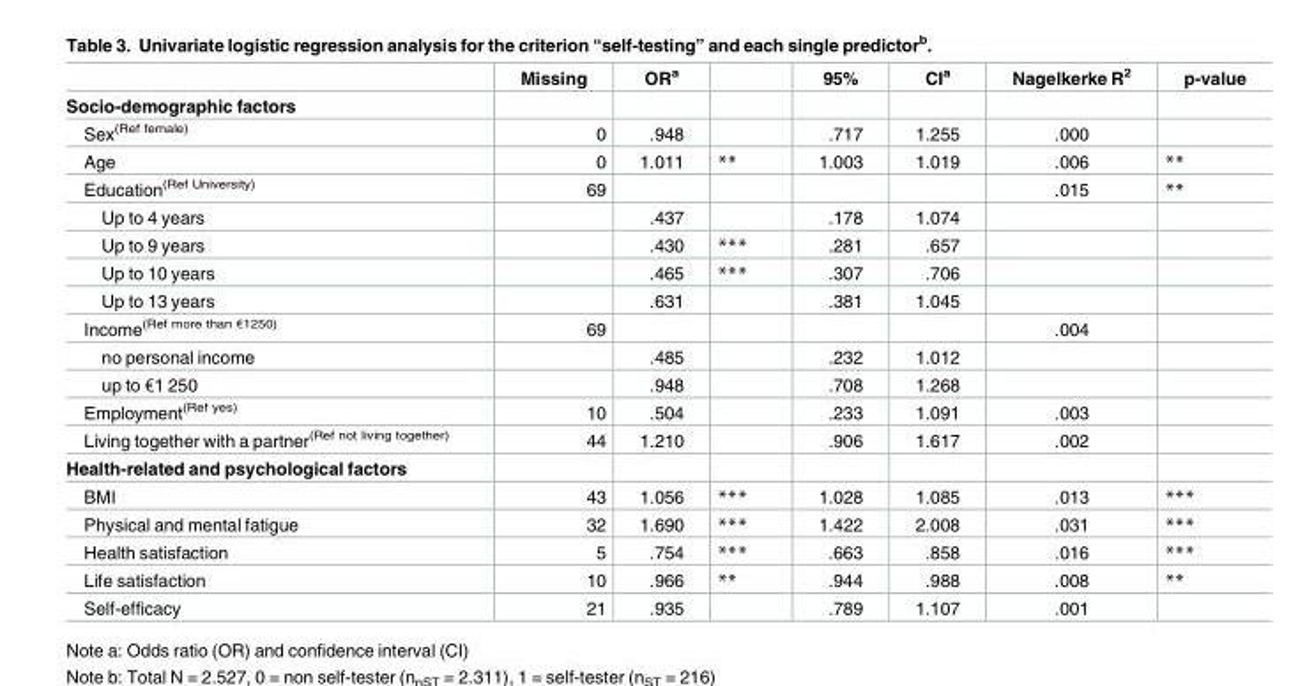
<table><thead><tr><td></td><td>Missing</td><td>OR<sup>a</sup></td><td></td><td>95%</td><td>CI<sup>a</sup></td><td>Nagelkerke R<sup>2</sup></td><td>p-value</td></tr></thead><tbody><tr><td colspan="8">Socio-demographic factors</td></tr><tr><td>Sex<sup>(Ref female)</sup></td><td>0</td><td>.948</td><td></td><td>.717</td><td>1.255</td><td>.000</td><td></td></tr><tr><td>Age</td><td>0</td><td>1.011</td><td>**</td><td>1.003</td><td>1.019</td><td>.006</td><td>**</td></tr><tr><td>Education<sup>(Ref University)</sup></td><td>69</td><td></td><td></td><td></td><td></td><td>.015</td><td>**</td></tr><tr><td>Up to 4 years</td><td></td><td>.437</td><td></td><td>.178</td><td>1.074</td><td></td><td></td></tr><tr><td>Up to 9 years</td><td></td><td>.430</td><td>***</td><td>.281</td><td>.657</td><td></td><td></td></tr><tr><td>Up to 10 years</td><td></td><td>.465</td><td>***</td><td>.307</td><td>.706</td><td></td><td></td></tr><tr><td>Up to 13 years</td><td></td><td>.631</td><td></td><td>.381</td><td>1.045</td><td></td><td></td></tr><tr><td>Income<sup>(Ref more than €1250)</sup></td><td>69</td><td></td><td></td><td></td><td></td><td>.004</td><td></td></tr><tr><td>no personal income</td><td></td><td>.485</td><td></td><td>.232</td><td>1.012</td><td></td><td></td></tr><tr><td>up to €1 250</td><td></td><td>.948</td><td></td><td>.708</td><td>1.268</td><td></td><td></td></tr><tr><td>Employment<sup>(Ref yes)</sup></td><td>10</td><td>.504</td><td></td><td>.233</td><td>1.091</td><td>.003</td><td></td></tr><tr><td>Living together with a partner<sup>(Ref not living together)</sup></td><td>44</td><td>1.210</td><td></td><td>.906</td><td>1.617</td><td>.002</td><td></td></tr><tr><td colspan="8">Health-related and psychological factors</td></tr><tr><td>BMI</td><td>43</td><td>1.056</td><td>***</td><td>1.028</td><td>1.085</td><td>.013</td><td>***</td></tr><tr><td>Physical and mental fatigue</td><td>32</td><td>1.690</td><td>***</td><td>1.422</td><td>2.008</td><td>.031</td><td>***</td></tr><tr><td>Health satisfaction</td><td>5</td><td>.754</td><td>***</td><td>.663</td><td>.858</td><td>.016</td><td>***</td></tr><tr><td>Life satisfaction</td><td>10</td><td>.966</td><td>**</td><td>.944</td><td>.988</td><td>.008</td><td>**</td></tr><tr><td>Self-efficacy</td><td>21</td><td>.935</td><td></td><td>.789</td><td>1.107</td><td>.001</td><td></td></tr></tbody></table>